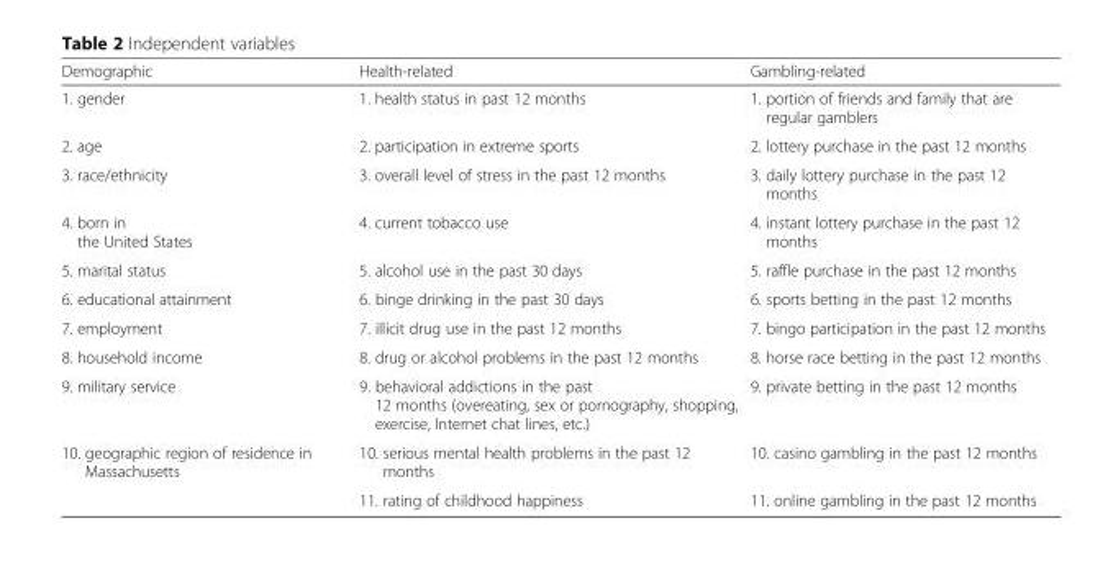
<table><thead><tr><td>Demographic</td><td>Health-related</td><td>Gambling-related</td></tr></thead><tbody><tr><td>1. gender</td><td>1. health status in past 12 months</td><td>1. portion of friends and family that are regular gamblers</td></tr><tr><td>2. age</td><td>2. participation in extreme sports</td><td>2. lottery purchase in the past 12 months</td></tr><tr><td>3. race/ethnicity</td><td>3. overall level of stress in the past 12 months</td><td>3. daily lottery purchase in the past 12 months</td></tr><tr><td>4. born in the United States</td><td>4. current tobacco use</td><td>4. instant lottery purchase in the past 12 months</td></tr><tr><td>5. marital status</td><td>5. alcohol use in the past 30 days</td><td>5. raffle purchase in the past 12 months</td></tr><tr><td>6. educational attainment</td><td>6. binge drinking in the past 30 days</td><td>6. sports betting in the past 12 months</td></tr><tr><td>7. employment</td><td>7. illicit drug use in the past 12 months</td><td>7. bingo participation in the past 12 months</td></tr><tr><td>8. household income</td><td>8. drug or alcohol problems in the past 12 months</td><td>8. horse race betting in the past 12 months</td></tr><tr><td>9. military service</td><td>9. behavioral addictions in the past 12 months (overeating, sex or pornography, shopping, exercise, Internet chat lines, etc.)</td><td>9. private betting in the past 12 months</td></tr><tr><td rowspan="2">10. geographic region of residence in Massachusetts</td><td>10. serious mental health problems in the past 12 months</td><td>10. casino gambling in the past 12 months</td></tr><tr><td>11. rating of childhood happiness</td><td>11. online gambling in the past 12 months</td></tr></tbody></table>